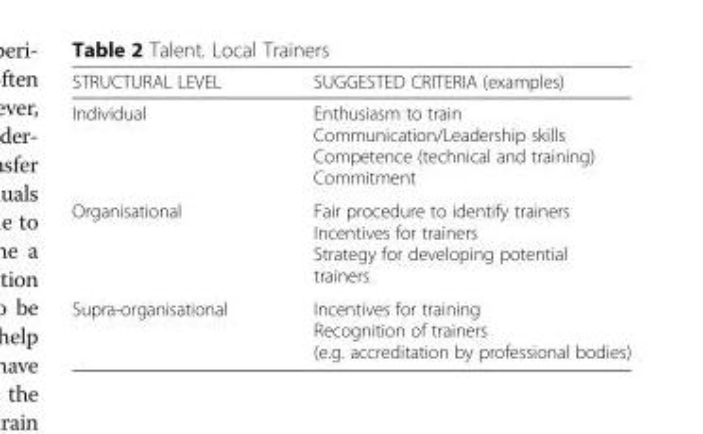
<table><thead><tr><td>STRUCTURAL LEVEL</td><td>SUGGESTED CRITERIA (examples)</td></tr></thead><tbody><tr><td>Individual</td><td>Enthusiasm to train Communication/Leadership skills Competence (technical and training) Commitment</td></tr><tr><td>Organisational</td><td>Fair procedure to identify trainers Incentives for trainers Strategy for developing potential trainers</td></tr><tr><td>Supra-organisational</td><td>Incentives for training Recognition of trainers (e.g. accreditation by professional bodies)</td></tr></tbody></table>